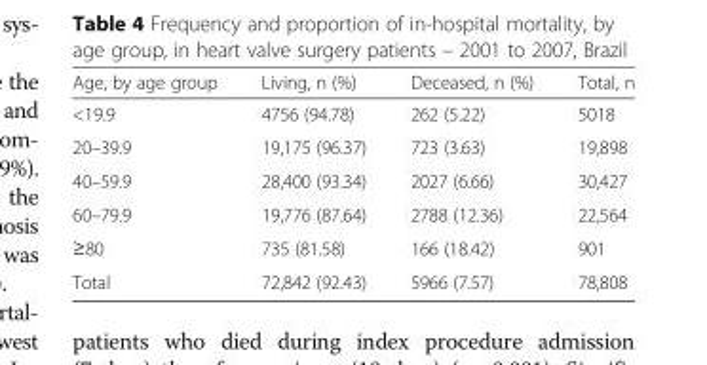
<table><thead><tr><td>Age, by age group</td><td>Living, n (%)</td><td>Deceased, n (%)</td><td>Total, n</td></tr></thead><tbody><tr><td>&lt;19.9</td><td>4756 (94.78)</td><td>262 (5.22)</td><td>5018</td></tr><tr><td>20–39.9</td><td>19,175 (96.37)</td><td>723 (3.63)</td><td>19,898</td></tr><tr><td>40–59.9</td><td>28,400 (93.34)</td><td>2027 (6.66)</td><td>30,427</td></tr><tr><td>60–79.9</td><td>19,776 (87.64)</td><td>2788 (12.36)</td><td>22,564</td></tr><tr><td>≥80</td><td>735 (81.58)</td><td>166 (18.42)</td><td>901</td></tr><tr><td>Total</td><td>72,842 (92.43)</td><td>5966 (7.57)</td><td>78,808</td></tr></tbody></table>